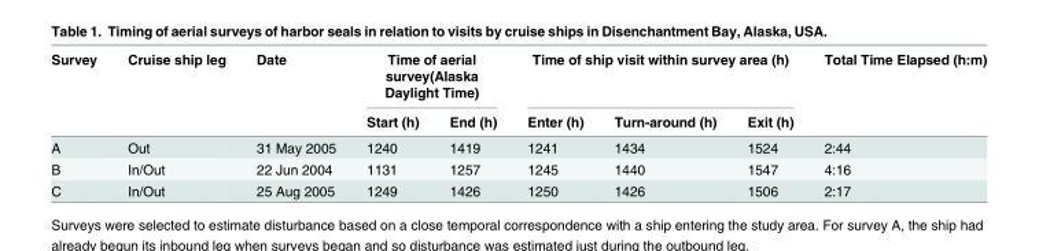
<table><thead><tr><td rowspan="2">Survey</td><td rowspan="2">Cruise ship leg</td><td rowspan="2">Date</td><td colspan="2">Time of aerial survey(Alaska Daylight Time)</td><td colspan="3">Time of ship visit within survey area (h)</td><td rowspan="2">Total Time Elapsed (h:m)</td></tr><tr><td>Start (h)</td><td>End (h)</td><td>Enter (h)</td><td>Turn-around (h)</td><td>Exit (h)</td></tr></thead><tbody><tr><td>A</td><td>Out</td><td>31 May 2005</td><td>1240</td><td>1419</td><td>1241</td><td>1434</td><td>1524</td><td>2:44</td></tr><tr><td>B</td><td>In/Out</td><td>22 Jun 2004</td><td>1131</td><td>1257</td><td>1245</td><td>1440</td><td>1547</td><td>4:16</td></tr><tr><td>C</td><td>In/Out</td><td>25 Aug 2005</td><td>1249</td><td>1426</td><td>1250</td><td>1426</td><td>1506</td><td>2:17</td></tr></tbody></table>